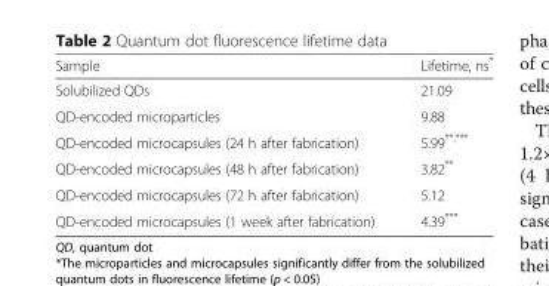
<table><thead><tr><td>Sample</td><td>Lifetime, ns*</td></tr></thead><tbody><tr><td>Solubilized QDs</td><td>21.09</td></tr><tr><td>QD-encoded microparticles</td><td>9.88</td></tr><tr><td>QD-encoded microcapsules (24 h after fabrication)</td><td>5.99<sup>**,***</sup></td></tr><tr><td>QD-encoded microcapsules (48 h after fabrication)</td><td>3.82**</td></tr><tr><td>QD-encoded microcapsules (72 h after fabrication)</td><td>5.12</td></tr><tr><td>QD-encoded microcapsules (1 week after fabrication)</td><td>4.39***</td></tr></tbody></table>